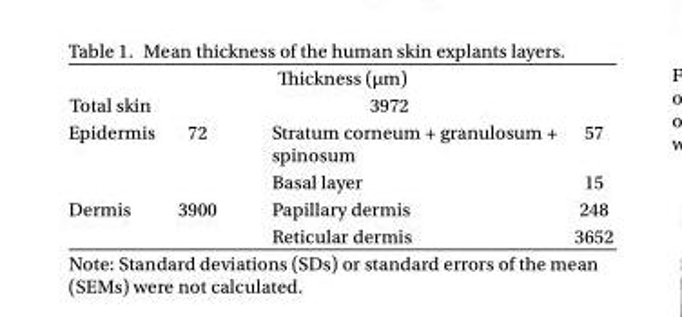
<table><thead><tr><td></td><td></td><td>Thickness (µm)</td><td></td></tr></thead><tbody><tr><td>Total skin</td><td></td><td>3972</td><td></td></tr><tr><td rowspan="2">Epidermis</td><td>72</td><td>Stratum corneum + granulosum + spinosum</td><td>57</td></tr><tr><td></td><td>Basal layer</td><td>15</td></tr><tr><td rowspan="2">Dermis</td><td>3900</td><td>Papillary dermis</td><td>248</td></tr><tr><td></td><td>Reticular dermis</td><td>3652</td></tr></tbody></table>